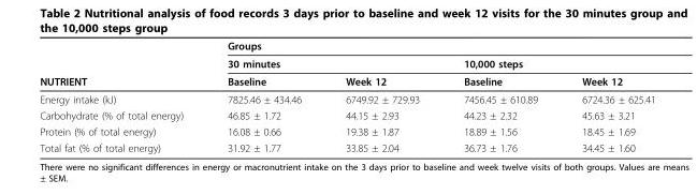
<table><thead><tr><td rowspan="3">NUTRIENT</td><td colspan="4">Groups</td></tr><tr><td colspan="2">30 minutes</td><td colspan="2">10,000 steps</td></tr><tr><td>Baseline</td><td>Week 12</td><td>Baseline</td><td>Week 12</td></tr></thead><tbody><tr><td>Energy intake (kJ)</td><td>7825.46 ± 434.46</td><td>6749.92 ± 729.93</td><td>7456.45 ± 610.89</td><td>6724.36 ± 625.41</td></tr><tr><td>Carbohydrate (% of total energy)</td><td>46.85 ± 1.72</td><td>44.15 ± 2.93</td><td>44.23 ± 2.32</td><td>45.63 ± 3.21</td></tr><tr><td>Protein (% of total energy)</td><td>16.08 ± 0.66</td><td>19.38 ± 1.87</td><td>18.89 ± 1.56</td><td>18.45 ± 1.69</td></tr><tr><td>Total fat (% of total energy)</td><td>31.92 ± 1.77</td><td>33.85 ± 2.04</td><td>36.73 ± 1.76</td><td>34.45 ± 1.60</td></tr></tbody></table>